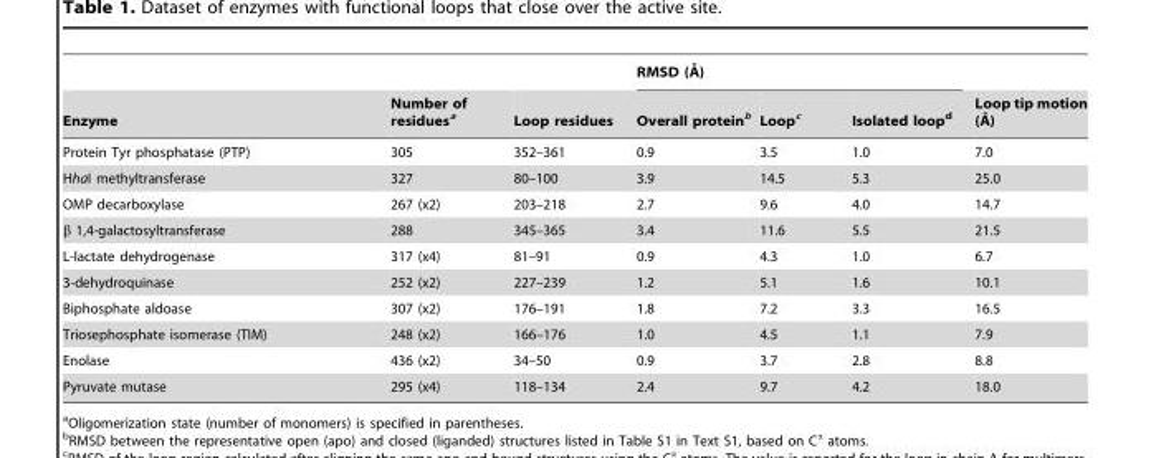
<table><thead><tr><td rowspan="2">Enzyme</td><td rowspan="2">Number of residues<sup>a</sup></td><td rowspan="2">Loop residues</td><td colspan="3">RMSD (A˚ )</td><td rowspan="2">Loop tip motion (A˚ )</td></tr><tr><td>Overall protein<sup>b</sup></td><td>Loop<sup>c</sup></td><td>Isolated loop<sup>d</sup></td></tr></thead><tbody><tr><td>Protein Tyr phosphatase (PTP)</td><td>305</td><td>352–361</td><td>0.9</td><td>3.5</td><td>1.0</td><td>7.0</td></tr><tr><td>HhaI methyltransferase</td><td>327</td><td>80–100</td><td>3.9</td><td>14.5</td><td>5.3</td><td>25.0</td></tr><tr><td>OMP decarboxylase</td><td>267 (x2)</td><td>203–218</td><td>2.7</td><td>9.6</td><td>4.0</td><td>14.7</td></tr><tr><td>β 1,4-galactosyltransferase</td><td>288</td><td>345–365</td><td>3.4</td><td>11.6</td><td>5.5</td><td>21.5</td></tr><tr><td>L-lactate dehydrogenase</td><td>317 (x4)</td><td>81–91</td><td>0.9</td><td>4.3</td><td>1.0</td><td>6.7</td></tr><tr><td>3-dehydroquinase</td><td>252 (x2)</td><td>227–239</td><td>1.2</td><td>5.1</td><td>1.6</td><td>10.1</td></tr><tr><td>Biphosphate aldoase</td><td>307 (x2)</td><td>176–191</td><td>1.8</td><td>7.2</td><td>3.3</td><td>16.5</td></tr><tr><td>Triosephosphate isomerase (TIM)</td><td>248 (x2)</td><td>166–176</td><td>1.0</td><td>4.5</td><td>1.1</td><td>7.9</td></tr><tr><td>Enolase</td><td>436 (x2)</td><td>34–50</td><td>0.9</td><td>3.7</td><td>2.8</td><td>8.8</td></tr><tr><td>Pyruvate mutase</td><td>295 (x4)</td><td>118–134</td><td>2.4</td><td>9.7</td><td>4.2</td><td>18.0</td></tr></tbody></table>